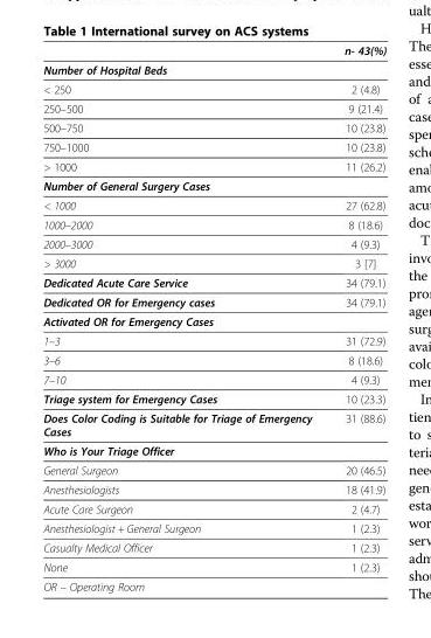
<table><thead><tr><td></td><td>n- 43(%)</td></tr></thead><tbody><tr><td colspan="2">Number of Hospital Beds</td></tr><tr><td>&lt; 250</td><td>2 (4.8)</td></tr><tr><td>250–500</td><td>9 (21.4)</td></tr><tr><td>500–750</td><td>10 (23.8)</td></tr><tr><td>750–1000</td><td>10 (23.8)</td></tr><tr><td>&gt; 1000</td><td>11 (26.2)</td></tr><tr><td colspan="2">Number of General Surgery Cases</td></tr><tr><td>&lt; 1000</td><td>27 (62.8)</td></tr><tr><td>1000–2000</td><td>8 (18.6)</td></tr><tr><td>2000–3000</td><td>4 (9.3)</td></tr><tr><td>&gt; 3000</td><td>3 [7]</td></tr><tr><td>Dedicated Acute Care Service</td><td>34 (79.1)</td></tr><tr><td>Dedicated OR for Emergency cases</td><td>34 (79.1)</td></tr><tr><td colspan="2">Activated OR for Emergency Cases</td></tr><tr><td>1–3</td><td>31 (72.9)</td></tr><tr><td>3–6</td><td>8 (18.6)</td></tr><tr><td>7–10</td><td>4 (9.3)</td></tr><tr><td>Triage system for Emergency Cases</td><td>10 (23.3)</td></tr><tr><td>Does Color Coding is Suitable for Triage of Emergency Cases</td><td>31 (88.6)</td></tr><tr><td colspan="2">Who is Your Triage Officer</td></tr><tr><td>General Surgeon</td><td>20 (46.5)</td></tr><tr><td>Anesthesiologists</td><td>18 (41.9)</td></tr><tr><td>Acute Care Surgeon</td><td>2 (4.7)</td></tr><tr><td>Anesthesiologist + General Surgeon</td><td>1 (2.3)</td></tr><tr><td>Casualty Medical Officer</td><td>1 (2.3)</td></tr><tr><td>None</td><td>1 (2.3)</td></tr><tr><td colspan="2">OR – Operating Room</td></tr></tbody></table>